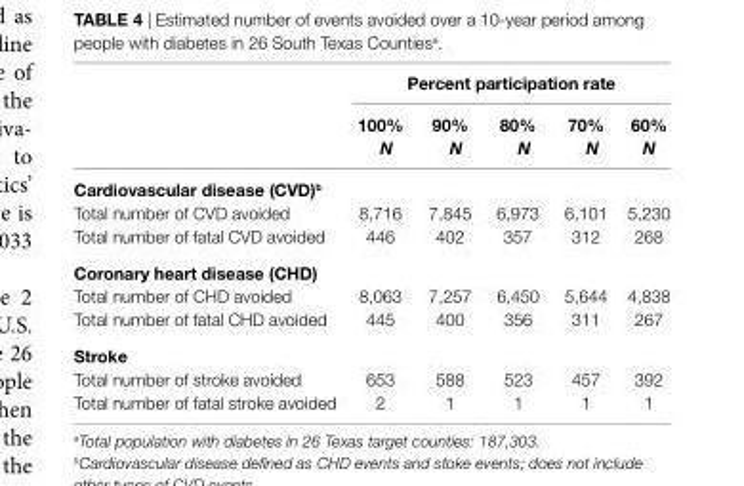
<table><thead><tr><td rowspan="2"></td><td colspan="5">Percent participation rate</td></tr><tr><td>100% N</td><td>90% N</td><td>80% N</td><td>70% N</td><td>60% N</td></tr></thead><tbody><tr><td colspan="6">Cardiovascular disease (CVd)<sup>b</sup></td></tr><tr><td>Total number of CVD avoided</td><td>8,716</td><td>7,845</td><td>6,973</td><td>6,101</td><td>5,230</td></tr><tr><td>Total number of fatal CVD avoided</td><td>446</td><td>402</td><td>357</td><td>312</td><td>268</td></tr><tr><td colspan="6">Coronary heart disease (CHd)</td></tr><tr><td>Total number of CHD avoided</td><td>8,063</td><td>7,257</td><td>6,450</td><td>5,644</td><td>4,838</td></tr><tr><td>Total number of fatal CHD avoided</td><td>445</td><td>400</td><td>356</td><td>311</td><td>267</td></tr><tr><td colspan="6">stroke</td></tr><tr><td>Total number of stroke avoided</td><td>653</td><td>588</td><td>523</td><td>457</td><td>392</td></tr><tr><td>Total number of fatal stroke avoided</td><td>2</td><td>1</td><td>1</td><td>1</td><td>1</td></tr></tbody></table>